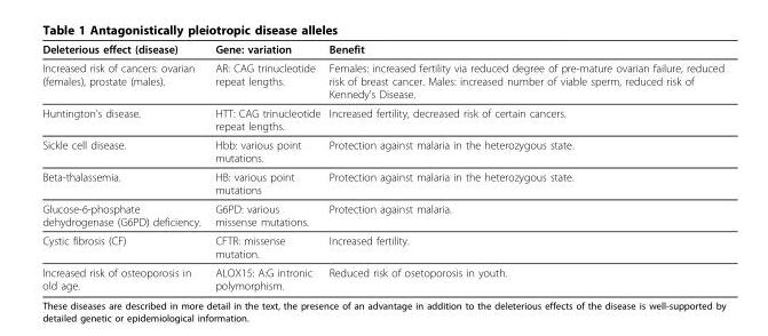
<table><thead><tr><td>Deleterious effect (disease)</td><td>Gene: variation</td><td>Benefit</td></tr></thead><tbody><tr><td>Increased risk of cancers: ovarian (females), prostate (males).</td><td>AR: CAG trinucleotide repeat lengths.</td><td>Females: increased fertility via reduced degree of pre-mature ovarian failure, reduced risk of breast cancer. Males: increased number of viable sperm, reduced risk of Kennedy’s Disease.</td></tr><tr><td>Huntington’s disease.</td><td>HTT: CAG trinucleotide repeat lengths.</td><td>Increased fertility, decreased risk of certain cancers.</td></tr><tr><td>Sickle cell disease.</td><td>Hbb: various point mutations.</td><td>Protection against malaria in the heterozygous state.</td></tr><tr><td>Beta-thalassemia.</td><td>HB: various point mutations</td><td>Protection against malaria in the heterozygous state.</td></tr><tr><td>Glucose-6-phosphate dehydrogenase (G6PD) deficiency.</td><td>G6PD: various missense mutations.</td><td>Protection against malaria.</td></tr><tr><td>Cystic fibrosis (CF)</td><td>CFTR: missense mutation.</td><td>Increased fertility.</td></tr><tr><td>Increased risk of osteoporosis in old age.</td><td>ALOX15: A:G intronic polymorphism.</td><td>Reduced risk of osetoporosis in youth.</td></tr></tbody></table>